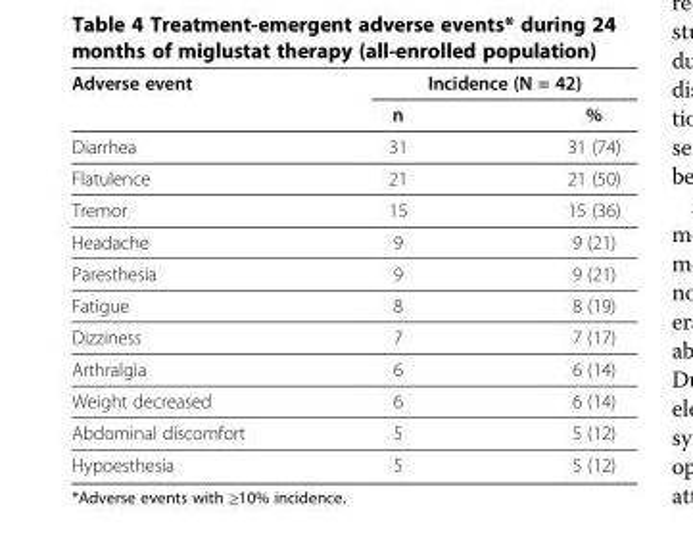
<table><thead><tr><td rowspan="2">Adverse event</td><td colspan="2">Incidence (N = 42)</td></tr><tr><td>n</td><td>%</td></tr></thead><tbody><tr><td>Diarrhea</td><td>31</td><td>31 (74)</td></tr><tr><td>Flatulence</td><td>21</td><td>21 (50)</td></tr><tr><td>Tremor</td><td>15</td><td>15 (36)</td></tr><tr><td>Headache</td><td>9</td><td>9 (21)</td></tr><tr><td>Paresthesia</td><td>9</td><td>9 (21)</td></tr><tr><td>Fatigue</td><td>8</td><td>8 (19)</td></tr><tr><td>Dizziness</td><td>7</td><td>7 (17)</td></tr><tr><td>Arthralgia</td><td>6</td><td>6 (14)</td></tr><tr><td>Weight decreased</td><td>6</td><td>6 (14)</td></tr><tr><td>Abdominal discomfort</td><td>5</td><td>5 (12)</td></tr><tr><td>Hypoesthesia</td><td>5</td><td>5 (12)</td></tr></tbody></table>